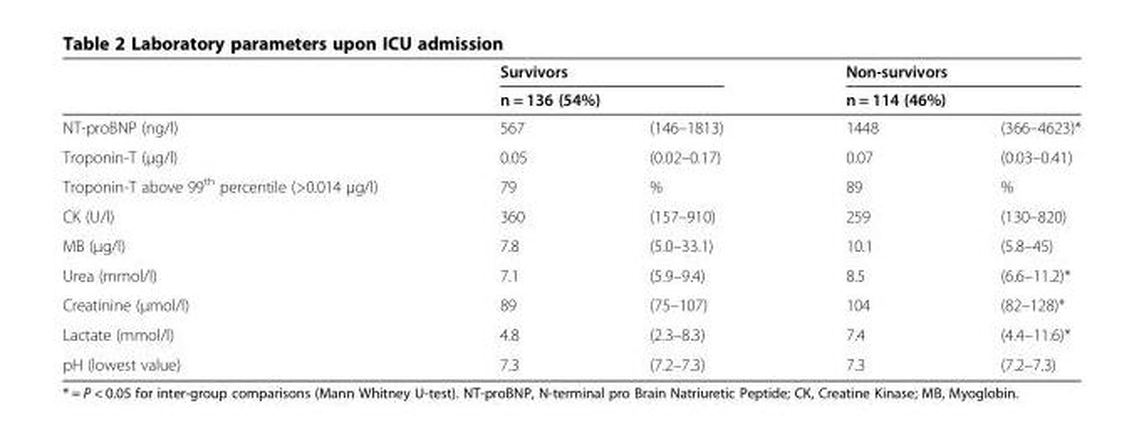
<table><thead><tr><td rowspan="3">NT-proBNP (ng/l)</td><td rowspan="2" colspan="2">Survivors n = 136 (54%)</td><td rowspan="2" colspan="2">Non-survivors n = 114 (46%)</td></tr><tr></tr><tr><td>567</td><td>(146–1813)</td><td>1448</td><td>(366–4623)*</td></tr></thead><tbody><tr><td>Troponin-T (μg/l)</td><td>0.05</td><td>(0.02–0.17)</td><td>0.07</td><td>(0.03–0.41)</td></tr><tr><td>Troponin-T above 99<sup>th</sup> percentile (&gt;0.014 μg/l)</td><td>79</td><td>%</td><td>89</td><td>%</td></tr><tr><td>CK (U/l)</td><td>360</td><td>(157–910)</td><td>259</td><td>(130–820)</td></tr><tr><td>MB (μg/l)</td><td>7.8</td><td>(5.0–33.1)</td><td>10.1</td><td>(5.8–45)</td></tr><tr><td>Urea (mmol/l)</td><td>7.1</td><td>(5.9–9.4)</td><td>8.5</td><td>(6.6–11.2)*</td></tr><tr><td>Creatinine (μmol/l)</td><td>89</td><td>(75–107)</td><td>104</td><td>(82–128)*</td></tr><tr><td>Lactate (mmol/l)</td><td>4.8</td><td>(2.3–8.3)</td><td>7.4</td><td>(4.4–11.6)*</td></tr><tr><td>pH (lowest value)</td><td>7.3</td><td>(7.2–7.3)</td><td>7.3</td><td>(7.2–7.3)</td></tr></tbody></table>